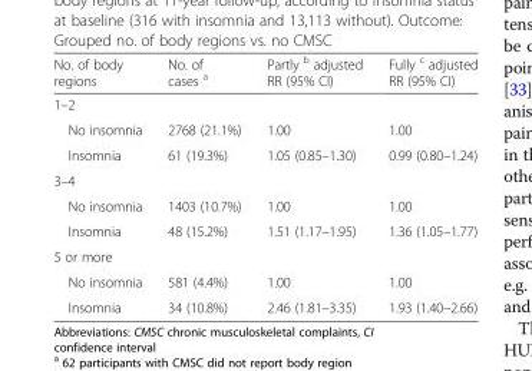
<table><thead><tr><td>No. of body regions</td><td>No. of cases <sup>a</sup></td><td>Partly <sup>b</sup> adjusted RR (95% CI)</td><td>Fully <sup>c</sup> adjusted RR (95% CI)</td></tr></thead><tbody><tr><td colspan="4">1–2</td></tr><tr><td>No insomnia</td><td>2768 (21.1%)</td><td>1.00</td><td>1.00</td></tr><tr><td>Insomnia</td><td>61 (19.3%)</td><td>1.05 (0.85–1.30)</td><td>0.99 (0.80–1.24)</td></tr><tr><td colspan="4">3–4</td></tr><tr><td>No insomnia</td><td>1403 (10.7%)</td><td>1.00</td><td>1.00</td></tr><tr><td>Insomnia</td><td>48 (15.2%)</td><td>1.51 (1.17–1.95)</td><td>1.36 (1.05–1.77)</td></tr><tr><td colspan="4">5 or more</td></tr><tr><td>No insomnia</td><td>581 (4.4%)</td><td>1.00</td><td>1.00</td></tr><tr><td>Insomnia</td><td>34 (10.8%)</td><td>2.46 (1.81–3.35)</td><td>1.93 (1.40–2.66)</td></tr></tbody></table>